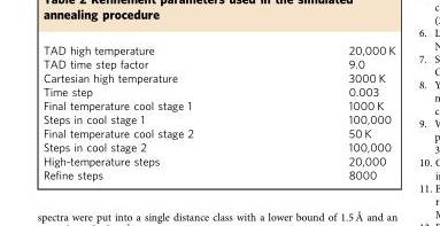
<table><tbody><tr><td>TAD high temperature</td><td>20,000 K</td></tr><tr><td>TAD time step factor</td><td>9.0</td></tr><tr><td>Cartesian high temperature</td><td>3000 K</td></tr><tr><td>Time step</td><td>0.003</td></tr><tr><td>Final temperature cool stage 1</td><td>1000 K</td></tr><tr><td>Steps in cool stage 1</td><td>100,000</td></tr><tr><td>Final temperature cool stage 2</td><td>50 K</td></tr><tr><td>Steps in cool stage 2</td><td>100,000</td></tr><tr><td>High-temperature steps</td><td>20,000</td></tr><tr><td>Refine steps</td><td>8000</td></tr></tbody></table>